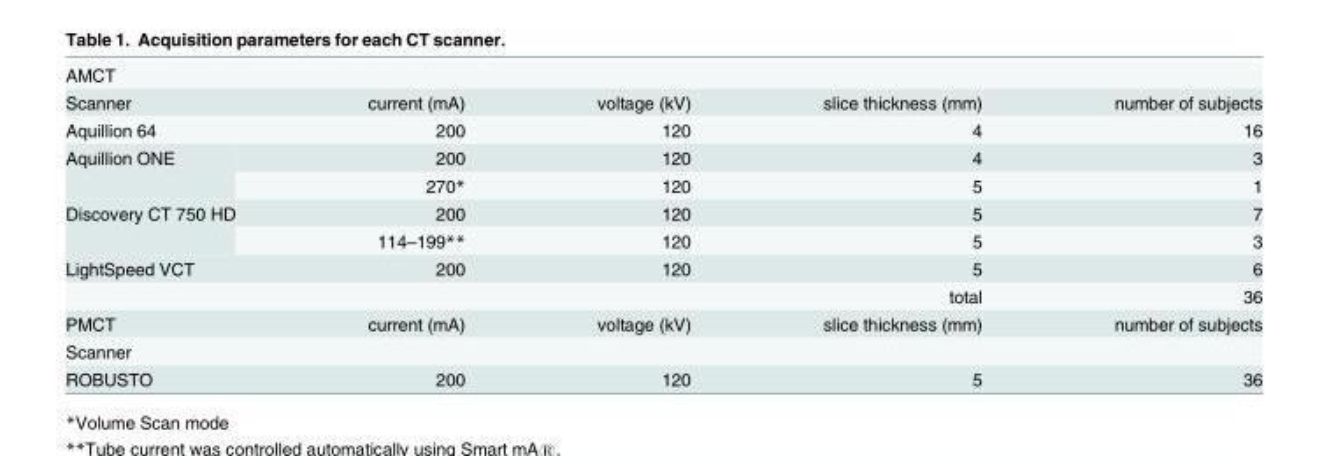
<table><tbody><tr><td colspan="5">AMCT</td></tr><tr><td>Scanner</td><td>current (mA)</td><td>voltage (kV)</td><td>slice thickness (mm)</td><td>number of subjects</td></tr><tr><td>Aquillion 64</td><td>200</td><td>120</td><td>4</td><td>16</td></tr><tr><td rowspan="2">Aquillion ONE</td><td>200</td><td>120</td><td>4</td><td>3</td></tr><tr><td>270*</td><td>120</td><td>5</td><td>1</td></tr><tr><td rowspan="2">Discovery CT 750 HD</td><td>200</td><td>120</td><td>5</td><td>7</td></tr><tr><td>114–199**</td><td>120</td><td>5</td><td>3</td></tr><tr><td>LightSpeed VCT</td><td>200</td><td>120</td><td>5</td><td>6</td></tr><tr><td colspan="4">total</td><td>36</td></tr><tr><td>PMCT</td><td>current (mA)</td><td>voltage (kV)</td><td>slice thickness (mm)</td><td>number of subjects</td></tr><tr><td colspan="5">Scanner</td></tr><tr><td>ROBUSTO</td><td>200</td><td>120</td><td>5</td><td>36</td></tr></tbody></table>